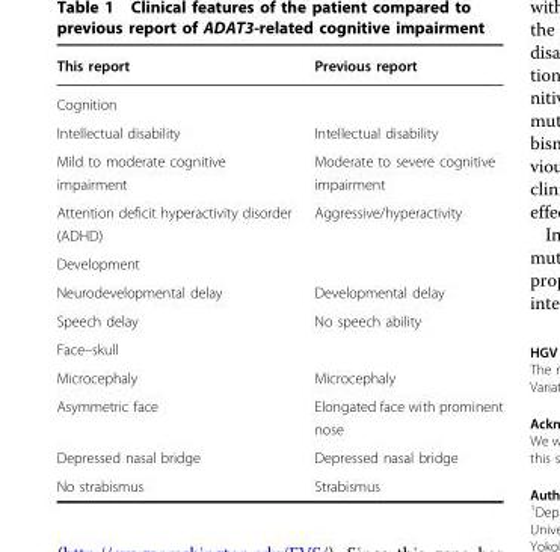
<table><thead><tr><td>This report</td><td>Previous report</td></tr></thead><tbody><tr><td colspan="2">Cognition</td></tr><tr><td>Intellectual disability</td><td>Intellectual disability</td></tr><tr><td>Mild to moderate cognitive impairment</td><td>Moderate to severe cognitive impairment</td></tr><tr><td>Attention deficit hyperactivity disorder (ADHD)</td><td>Aggressive/hyperactivity</td></tr><tr><td colspan="2">Development</td></tr><tr><td>Neurodevelopmental delay</td><td>Developmental delay</td></tr><tr><td>Speech delay</td><td>No speech ability</td></tr><tr><td colspan="2">Face–skull</td></tr><tr><td>Microcephaly</td><td>Microcephaly</td></tr><tr><td>Asymmetric face</td><td>Elongated face with prominent nose</td></tr><tr><td>Depressed nasal bridge</td><td>Depressed nasal bridge</td></tr><tr><td>No strabismus</td><td>Strabismus</td></tr></tbody></table>